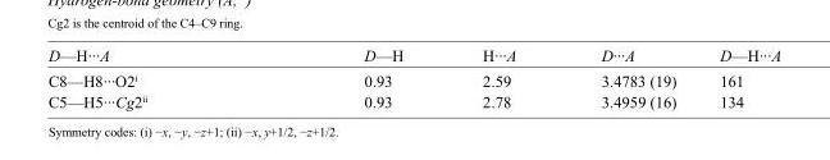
<table><tbody><tr><td>D—H···A</td><td>D—H</td><td>H···A</td><td>D···A</td><td>D—H···A</td></tr><tr><td>C8—H8···O2<sup>i</sup></td><td>0.93</td><td>2.59</td><td>3.4783 (19)</td><td>161</td></tr><tr><td>C5—H5···Cg2<sup>ii</sup></td><td>0.93</td><td>2.78</td><td>3.4959 (16)</td><td>134</td></tr></tbody></table>